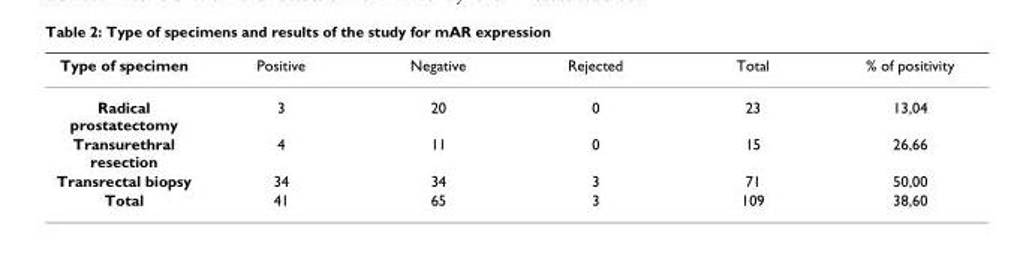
<table><thead><tr><td>Type of specimen</td><td>Positive</td><td>Negative</td><td>Rejected</td><td>Total</td><td>% of positivity</td></tr></thead><tbody><tr><td>Radical prostatectomy</td><td>3</td><td>20</td><td>0</td><td>23</td><td>13,04</td></tr><tr><td>Transurethral resection</td><td>4</td><td>11</td><td>0</td><td>15</td><td>26,66</td></tr><tr><td>Transrectal biopsy</td><td>34</td><td>34</td><td>3</td><td>71</td><td>50,00</td></tr><tr><td>Total</td><td>41</td><td>65</td><td>3</td><td>109</td><td>38,60</td></tr></tbody></table>